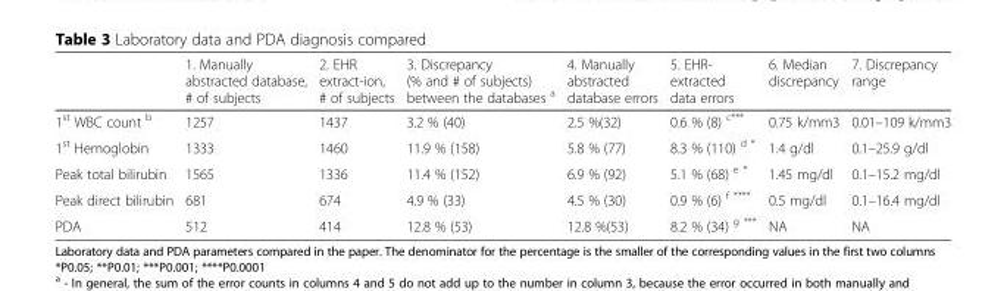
<table><thead><tr><td></td><td>1. Manually abstracted database, # of subjects</td><td>2. EHR extract-ion, # of subjects</td><td>3. Discrepancy (% and # of subjects) between the databases <sup>a</sup></td><td>4. Manually abstracted database errors</td><td>5. EHR- extracted data errors</td><td>6. Median discrepancy</td><td>7. Discrepancy range</td></tr></thead><tbody><tr><td>1<sup>st</sup> WBC count <sup>b</sup></td><td>1257</td><td>1437</td><td>3.2 % (40)</td><td>2.5 %(32)</td><td>0.6 % (8) <sup>c***</sup></td><td>0.75 k/mm3</td><td>0.01–109 k/mm3</td></tr><tr><td>1<sup>st</sup> Hemoglobin</td><td>1333</td><td>1460</td><td>11.9 % (158)</td><td>5.8 % (77)</td><td>8.3 % (110) <sup>d *</sup></td><td>1.4 g/dl</td><td>0.1–25.9 g/dl</td></tr><tr><td>Peak total bilirubin</td><td>1565</td><td>1336</td><td>11.4 % (152)</td><td>6.9 % (92)</td><td>5.1 % (68) <sup>e *</sup></td><td>1.45 mg/dl</td><td>0.1–15.2 mg/dl</td></tr><tr><td>Peak direct bilirubin</td><td>681</td><td>674</td><td>4.9 % (33)</td><td>4.5 % (30)</td><td>0.9 % (6) <sup>f ****</sup></td><td>0.5 mg/dl</td><td>0.1–16.4 mg/dl</td></tr><tr><td>PDA</td><td>512</td><td>414</td><td>12.8 % (53)</td><td>12.8 %(53)</td><td>8.2 % (34) <sup>g ***</sup></td><td>NA</td><td>NA</td></tr></tbody></table>